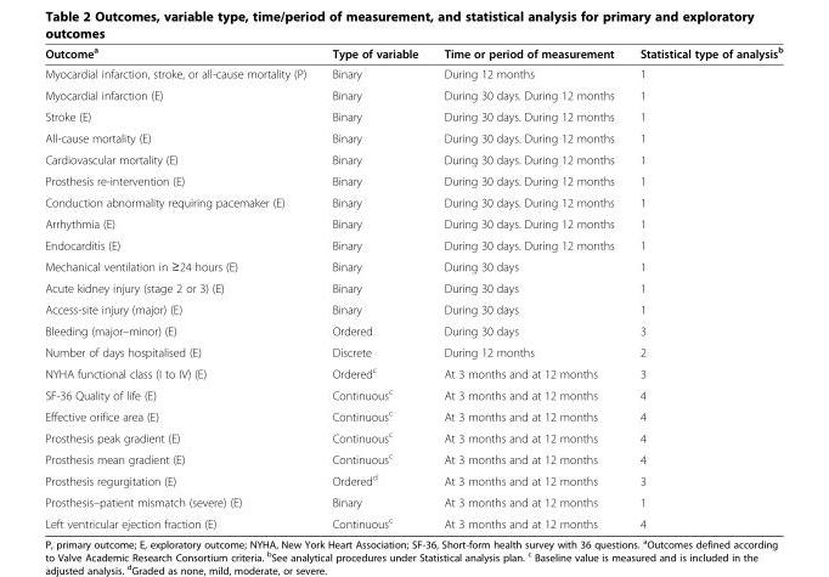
<table><thead><tr><td>Outcome<sup>a</sup></td><td>Type of variable</td><td>Time or period of measurement</td><td>Statistical type of analysis<sup>b</sup></td></tr></thead><tbody><tr><td>Myocardial infarction, stroke, or all-cause mortality (P)</td><td>Binary</td><td>During 12 months</td><td>1</td></tr><tr><td>Myocardial infarction (E)</td><td>Binary</td><td>During 30 days. During 12 months</td><td>1</td></tr><tr><td>Stroke (E)</td><td>Binary</td><td>During 30 days. During 12 months</td><td>1</td></tr><tr><td>All-cause mortality (E)</td><td>Binary</td><td>During 30 days. During 12 months</td><td>1</td></tr><tr><td>Cardiovascular mortality (E)</td><td>Binary</td><td>During 30 days. During 12 months</td><td>1</td></tr><tr><td>Prosthesis re-intervention (E)</td><td>Binary</td><td>During 30 days. During 12 months</td><td>1</td></tr><tr><td>Conduction abnormality requiring pacemaker (E)</td><td>Binary</td><td>During 30 days. During 12 months</td><td>1</td></tr><tr><td>Arrhythmia (E)</td><td>Binary</td><td>During 30 days. During 12 months</td><td>1</td></tr><tr><td>Endocarditis (E)</td><td>Binary</td><td>During 30 days. During 12 months</td><td>1</td></tr><tr><td>Mechanical ventilation in ≥24 hours (E)</td><td>Binary</td><td>During 30 days</td><td>1</td></tr><tr><td>Acute kidney injury (stage 2 or 3) (E)</td><td>Binary</td><td>During 30 days</td><td>1</td></tr><tr><td>Access-site injury (major) (E)</td><td>Binary</td><td>During 30 days</td><td>1</td></tr><tr><td>Bleeding (major–minor) (E)</td><td>Ordered</td><td>During 30 days</td><td>3</td></tr><tr><td>Number of days hospitalised (E)</td><td>Discrete</td><td>During 12 months</td><td>2</td></tr><tr><td>NYHA functional class (I to IV) (E)</td><td>Ordered<sup>c</sup></td><td>At 3 months and at 12 months</td><td>3</td></tr><tr><td>SF-36 Quality of life (E)</td><td>Continuous<sup>c</sup></td><td>At 3 months and at 12 months</td><td>4</td></tr><tr><td>Effective orifice area (E)</td><td>Continuous<sup>c</sup></td><td>At 3 months and at 12 months</td><td>4</td></tr><tr><td>Prosthesis peak gradient (E)</td><td>Continuous<sup>c</sup></td><td>At 3 months and at 12 months</td><td>4</td></tr><tr><td>Prosthesis mean gradient (E)</td><td>Continuous<sup>c</sup></td><td>At 3 months and at 12 months</td><td>4</td></tr><tr><td>Prosthesis regurgitation (E)</td><td>Ordered<sup>d</sup></td><td>At 3 months and at 12 months</td><td>3</td></tr><tr><td>Prosthesis–patient mismatch (severe) (E)</td><td>Binary</td><td>At 3 months and at 12 months</td><td>1</td></tr><tr><td>Left ventricular ejection fraction (E)</td><td>Continuous<sup>c</sup></td><td>At 3 months and at 12 months</td><td>4</td></tr></tbody></table>